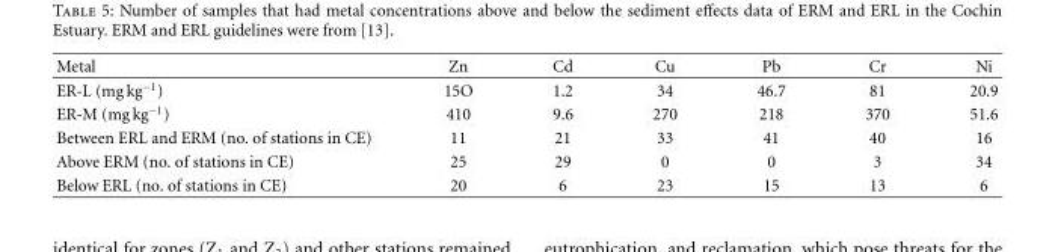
<table><thead><tr><td>Metal</td><td>Zn</td><td>Cd</td><td>Cu</td><td>Pb</td><td>Cr</td><td>Ni</td></tr></thead><tbody><tr><td>ER-L (mg kg<sup>−1</sup>)</td><td>15O</td><td>1.2</td><td>34</td><td>46.7</td><td>81</td><td>20.9</td></tr><tr><td>ER-M (mg kg<sup>−1</sup>)</td><td>410</td><td>9.6</td><td>270</td><td>218</td><td>370</td><td>51.6</td></tr><tr><td>Between ERL and ERM (no. of stations in CE)</td><td>11</td><td>21</td><td>33</td><td>41</td><td>40</td><td>16</td></tr><tr><td>Above ERM (no. of stations in CE)</td><td>25</td><td>29</td><td>0</td><td>0</td><td>3</td><td>34</td></tr><tr><td>Below ERL (no. of stations in CE)</td><td>20</td><td>6</td><td>23</td><td>15</td><td>13</td><td>6</td></tr></tbody></table>